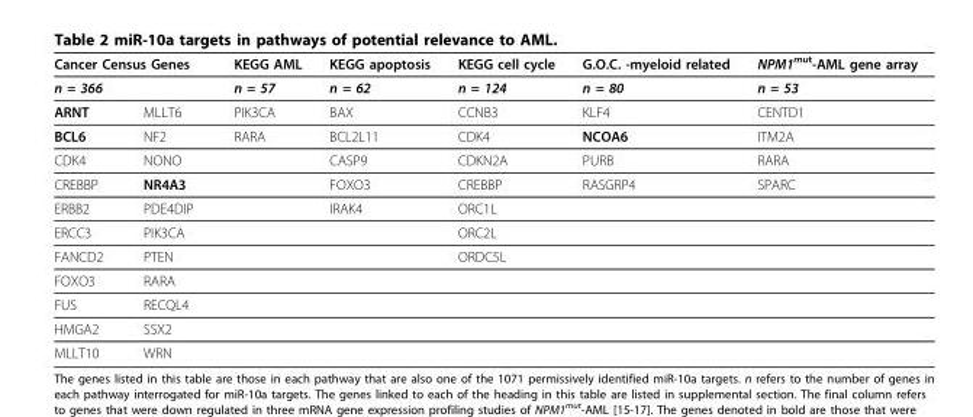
<table><thead><tr><td rowspan="2" colspan="2">Cancer Census Genes n = 366</td><td rowspan="3">KEGG AML n = 57 PIK3CA</td><td rowspan="3">KEGG apoptosis n = 62 BAX</td><td rowspan="3">KEGG cell cycle n = 124 CCNB3</td><td rowspan="3">G.O.C. -myeloid related n = 80 KLF4</td><td rowspan="3">NPM1mut-AML gene array n = 53 CENTD1</td></tr><tr></tr><tr><td>ARNT</td><td>MLLT6</td></tr></thead><tbody><tr><td>BCL6</td><td>NF2</td><td>RARA</td><td>BCL2L11</td><td>CDK4</td><td>NCOA6</td><td>ITM2A</td></tr><tr><td>CDK4</td><td>NONO</td><td></td><td>CASP9</td><td>CDKN2A</td><td>PURB</td><td>RARA</td></tr><tr><td>CREBBP</td><td>NR4A3</td><td></td><td>FOXO3</td><td>CREBBP</td><td>RASGRP4</td><td>SPARC</td></tr><tr><td>ERBB2</td><td>PDE4DIP</td><td></td><td>IRAK4</td><td>ORC1L</td><td></td><td></td></tr><tr><td>ERCC3</td><td>PIK3CA</td><td></td><td></td><td>ORC2L</td><td></td><td></td></tr><tr><td>FANCD2</td><td>PTEN</td><td></td><td></td><td>ORDC5L</td><td></td><td></td></tr><tr><td>FOXO3</td><td>RARA</td><td></td><td></td><td></td><td></td><td></td></tr><tr><td>FUS</td><td>RECQL4</td><td></td><td></td><td></td><td></td><td></td></tr><tr><td>HMGA2</td><td>SSX2</td><td></td><td></td><td></td><td></td><td></td></tr><tr><td>MLLT10</td><td>WRN</td><td></td><td></td><td></td><td></td><td></td></tr></tbody></table>